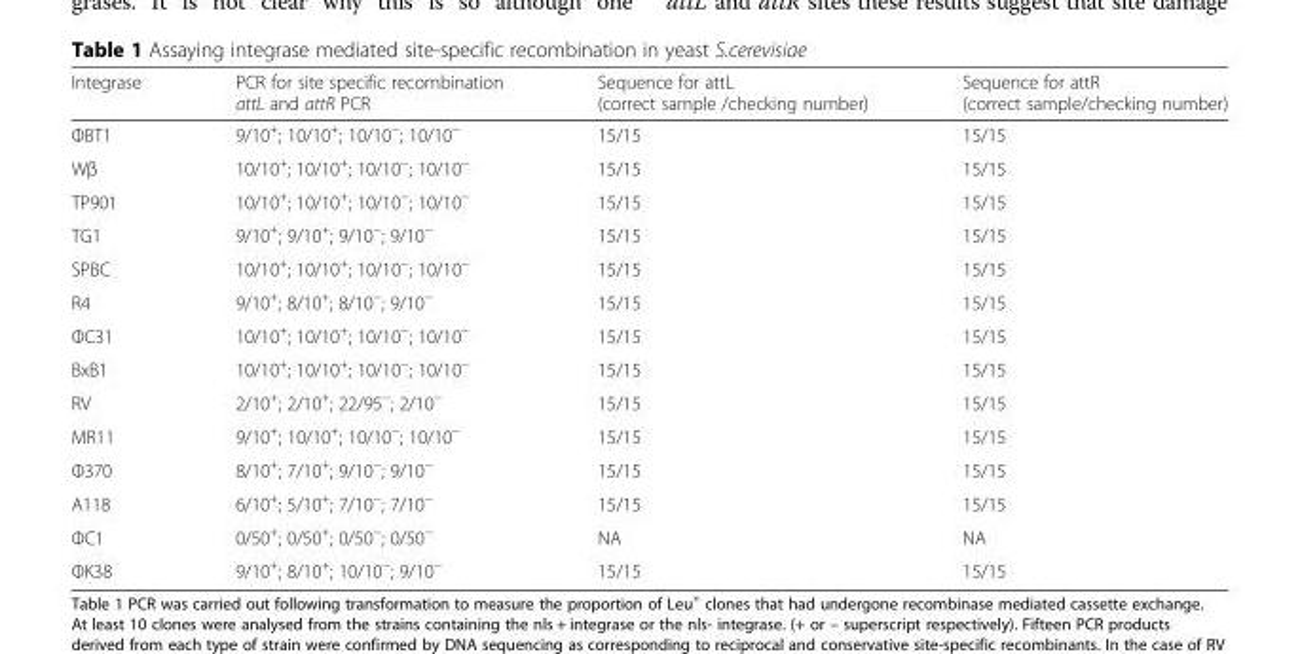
<table><thead><tr><td>Integrase</td><td>PCR for site specific recombination attL and attR PCR</td><td>Sequence for attL (correct sample /checking number)</td><td>Sequence for attR (correct sample/checking number)</td></tr></thead><tbody><tr><td>ΦBT1</td><td>9/10<sup>+</sup>; 10/10<sup>+</sup>; 10/10<sup>−</sup>; 10/10<sup>−</sup></td><td>15/15</td><td>15/15</td></tr><tr><td>Wβ</td><td>10/10<sup>+</sup>; 10/10<sup>+</sup>; 10/10<sup>−</sup>; 10/10<sup>−</sup></td><td>15/15</td><td>15/15</td></tr><tr><td>TP901</td><td>10/10<sup>+</sup>; 10/10<sup>+</sup>; 10/10<sup>−</sup>; 10/10<sup>−</sup></td><td>15/15</td><td>15/15</td></tr><tr><td>TG1</td><td>9/10<sup>+</sup>; 9/10<sup>+</sup>; 9/10<sup>−</sup>; 9/10<sup>−</sup></td><td>15/15</td><td>15/15</td></tr><tr><td>SPBC</td><td>10/10<sup>+</sup>; 10/10<sup>+</sup>; 10/10<sup>−</sup>; 10/10<sup>−</sup></td><td>15/15</td><td>15/15</td></tr><tr><td>R4</td><td>9/10<sup>+</sup>; 8/10<sup>+</sup>; 8/10<sup>−</sup>; 9/10<sup>−</sup></td><td>15/15</td><td>15/15</td></tr><tr><td>ΦC31</td><td>10/10<sup>+</sup>; 10/10<sup>+</sup>; 10/10<sup>−</sup>; 10/10<sup>−</sup></td><td>15/15</td><td>15/15</td></tr><tr><td>BxB1</td><td>10/10<sup>+</sup>; 10/10<sup>+</sup>; 10/10<sup>−</sup>; 10/10<sup>−</sup></td><td>15/15</td><td>15/15</td></tr><tr><td>RV</td><td>2/10<sup>+</sup>; 2/10<sup>+</sup>; 22/95<sup>−</sup>; 2/10<sup>−</sup></td><td>15/15</td><td>15/15</td></tr><tr><td>MR11</td><td>9/10<sup>+</sup>; 10/10<sup>+</sup>; 10/10<sup>−</sup>; 10/10<sup>−</sup></td><td>15/15</td><td>15/15</td></tr><tr><td>Φ370</td><td>8/10<sup>+</sup>; 7/10<sup>+</sup>; 9/10<sup>−</sup>; 9/10<sup>−</sup></td><td>15/15</td><td>15/15</td></tr><tr><td>A118</td><td>6/10<sup>+</sup>; 5/10<sup>+</sup>; 7/10<sup>−</sup>; 7/10<sup>−</sup></td><td>15/15</td><td>15/15</td></tr><tr><td>ΦC1</td><td>0/50<sup>+</sup>; 0/50<sup>+</sup>; 0/50<sup>−</sup>; 0/50<sup>−</sup></td><td>NA</td><td>NA</td></tr><tr><td>ΦK38</td><td>9/10<sup>+</sup>; 8/10<sup>+</sup>; 10/10<sup>−</sup>; 9/10<sup>−</sup></td><td>15/15</td><td>15/15</td></tr></tbody></table>